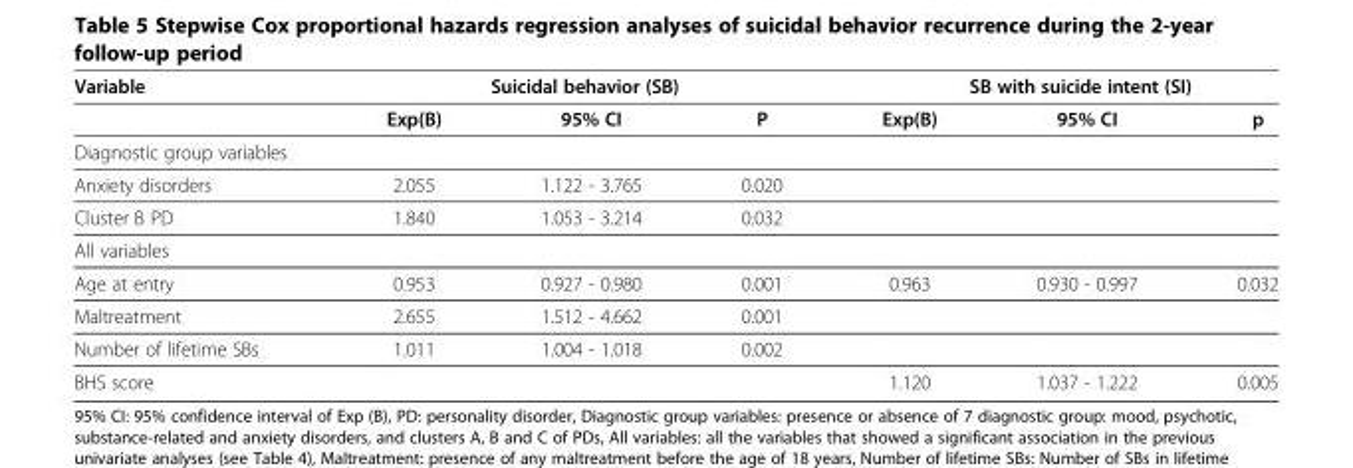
<table><thead><tr><td rowspan="2">Variable</td><td colspan="3">Suicidal behavior (SB)</td><td colspan="3">SB with suicide intent (SI)</td></tr><tr><td>Exp(B)</td><td>95% CI</td><td>P</td><td>Exp(B)</td><td>95% CI</td><td>p</td></tr></thead><tbody><tr><td colspan="7">Diagnostic group variables</td></tr><tr><td>Anxiety disorders</td><td>2.055</td><td>1.122 - 3.765</td><td>0.020</td><td></td><td></td><td></td></tr><tr><td>Cluster B PD</td><td>1.840</td><td>1.053 - 3.214</td><td>0.032</td><td></td><td></td><td></td></tr><tr><td colspan="7">All variables</td></tr><tr><td>Age at entry</td><td>0.953</td><td>0.927 - 0.980</td><td>0.001</td><td>0.963</td><td>0.930 - 0.997</td><td>0.032</td></tr><tr><td>Maltreatment</td><td>2.655</td><td>1.512 - 4.662</td><td>0.001</td><td></td><td></td><td></td></tr><tr><td>Number of lifetime SBs</td><td>1.011</td><td>1.004 - 1.018</td><td>0.002</td><td></td><td></td><td></td></tr><tr><td>BHS score</td><td></td><td></td><td></td><td>1.120</td><td>1.037 - 1.222</td><td>0.005</td></tr></tbody></table>